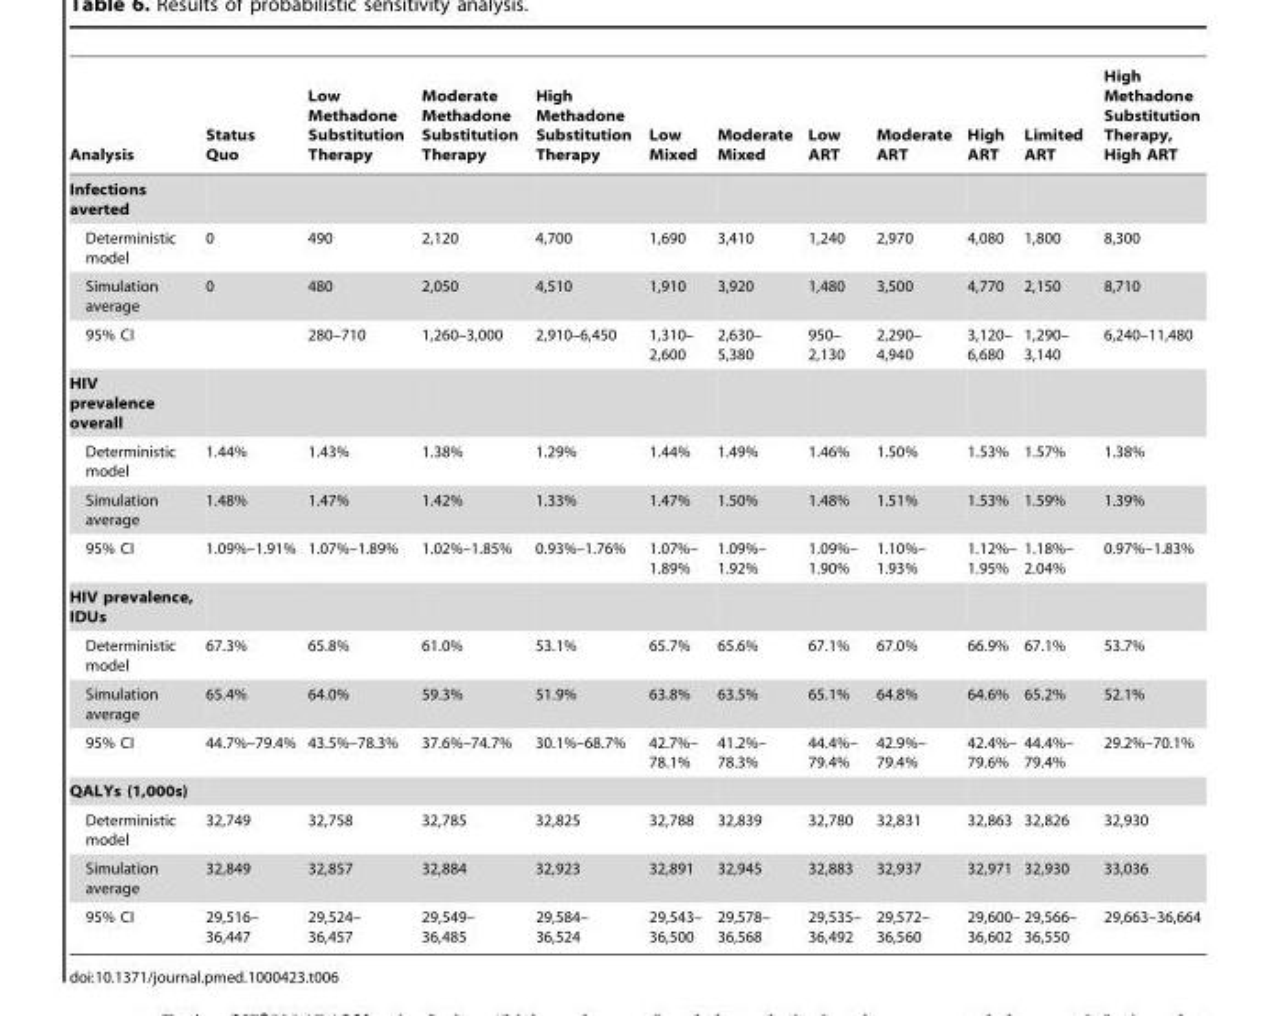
<table><thead><tr><td>Analysis</td><td>Status Quo</td><td>Low Methadone Substitution Therapy</td><td>Moderate Methadone Substitution Therapy</td><td>High Methadone Substitution Therapy</td><td>Low Mixed</td><td>Moderate Mixed</td><td>Low ART</td><td>Moderate ART</td><td>High ART</td><td>Limited ART</td><td>High Methadone Substitution Therapy, High ART</td></tr></thead><tbody><tr><td colspan="12">Infections averted</td></tr><tr><td>Deterministic model</td><td>0</td><td>490</td><td>2,120</td><td>4,700</td><td>1,690</td><td>3,410</td><td>1,240</td><td>2,970</td><td>4,080</td><td>1,800</td><td>8,300</td></tr><tr><td>Simulation average</td><td>0</td><td>480</td><td>2,050</td><td>4,510</td><td>1,910</td><td>3,920</td><td>1,480</td><td>3,500</td><td>4,770</td><td>2,150</td><td>8,710</td></tr><tr><td>95% CI</td><td></td><td>280–710</td><td>1,260–3,000</td><td>2,910–6,450</td><td>1,310– 2,600</td><td>2,630– 5,380</td><td>950– 2,130</td><td>2,290– 4,940</td><td>3,120– 6,680</td><td>1,290– 3,140</td><td>6,240–11,480</td></tr><tr><td colspan="12">HIV prevalence overall</td></tr><tr><td>Deterministic model</td><td>1.44%</td><td>1.43%</td><td>1.38%</td><td>1.29%</td><td>1.44%</td><td>1.49%</td><td>1.46%</td><td>1.50%</td><td>1.53%</td><td>1.57%</td><td>1.38%</td></tr><tr><td>Simulation average</td><td>1.48%</td><td>1.47%</td><td>1.42%</td><td>1.33%</td><td>1.47%</td><td>1.50%</td><td>1.48%</td><td>1.51%</td><td>1.53%</td><td>1.59%</td><td>1.39%</td></tr><tr><td>95% CI</td><td>1.09%–1.91%</td><td>1.07%–1.89%</td><td>1.02%–1.85%</td><td>0.93%–1.76%</td><td>1.07%– 1.89%</td><td>1.09%– 1.92%</td><td>1.09%– 1.90%</td><td>1.10%– 1.93%</td><td>1.12%– 1.95%</td><td>1.18%– 2.04%</td><td>0.97%–1.83%</td></tr><tr><td colspan="12">HIV prevalence, IDUs</td></tr><tr><td>Deterministic model</td><td>67.3%</td><td>65.8%</td><td>61.0%</td><td>53.1%</td><td>65.7%</td><td>65.6%</td><td>67.1%</td><td>67.0%</td><td>66.9%</td><td>67.1%</td><td>53.7%</td></tr><tr><td>Simulation average</td><td>65.4%</td><td>64.0%</td><td>59.3%</td><td>51.9%</td><td>63.8%</td><td>63.5%</td><td>65.1%</td><td>64.8%</td><td>64.6%</td><td>65.2%</td><td>52.1%</td></tr><tr><td>95% CI</td><td>44.7%–79.4%</td><td>43.5%–78.3%</td><td>37.6%–74.7%</td><td>30.1%–68.7%</td><td>42.7%– 78.1%</td><td>41.2%– 78.3%</td><td>44.4%– 79.4%</td><td>42.9%– 79.4%</td><td>42.4%– 79.6%</td><td>44.4%– 79.4%</td><td>29.2%–70.1%</td></tr><tr><td colspan="12">QALYs (1,000s)</td></tr><tr><td>Deterministic model</td><td>32,749</td><td>32,758</td><td>32,785</td><td>32,825</td><td>32,788</td><td>32,839</td><td>32,780</td><td>32,831</td><td>32,863</td><td>32,826</td><td>32,930</td></tr><tr><td>Simulation average</td><td>32,849</td><td>32,857</td><td>32,884</td><td>32,923</td><td>32,891</td><td>32,945</td><td>32,883</td><td>32,937</td><td>32,971</td><td>32,930</td><td>33,036</td></tr><tr><td>95% CI</td><td>29,516– 36,447</td><td>29,524– 36,457</td><td>29,549– 36,485</td><td>29,584– 36,524</td><td>29,543– 36,500</td><td>29,578– 36,568</td><td>29,535– 36,492</td><td>29,572– 36,560</td><td>29,600– 36,602</td><td>29,566– 36,550</td><td>29,663–36,664</td></tr></tbody></table>